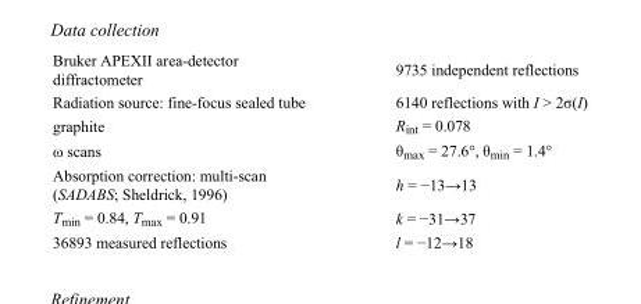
<table><tbody><tr><td>Bruker APEXII area-detector diffractometer</td><td>9735 independent reflections</td></tr><tr><td>Radiation source: fine-focus sealed tube</td><td>6140 reflections with I &gt; 2σ(I)</td></tr><tr><td>graphite</td><td>R<sub>int</sub> = 0.078</td></tr><tr><td>ω scans</td><td>θ<sub>max</sub> = 27.6°, θ<sub>min</sub> = 1.4°</td></tr><tr><td>Absorption correction: multi-scan (SADABS; Sheldrick, 1996)</td><td>h = −13→13</td></tr><tr><td>T<sub>min</sub> = 0.84, T<sub>max</sub> = 0.91</td><td>k = −31→37</td></tr><tr><td>36893 measured reflections</td><td>l = −12→18</td></tr></tbody></table>